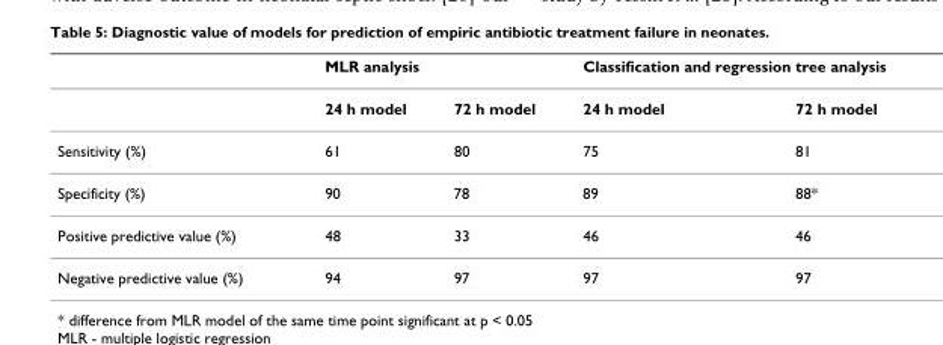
<table><thead><tr><td rowspan="2"></td><td colspan="2">MLR analysis</td><td colspan="2">Classification and regression tree analysis</td></tr><tr><td>24 h model</td><td>72 h model</td><td>24 h model</td><td>72 h model</td></tr></thead><tbody><tr><td>Sensitivity (%)</td><td>61</td><td>80</td><td>75</td><td>81</td></tr><tr><td>Specificity (%)</td><td>90</td><td>78</td><td>89</td><td>88*</td></tr><tr><td>Positive predictive value (%)</td><td>48</td><td>33</td><td>46</td><td>46</td></tr><tr><td>Negative predictive value (%)</td><td>94</td><td>97</td><td>97</td><td>97</td></tr></tbody></table>